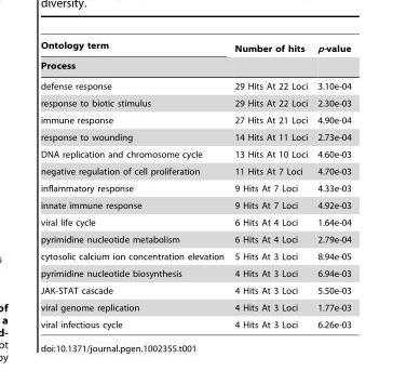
<table><thead><tr><td rowspan="2">Ontology term Process</td><td rowspan="2">Number of hits</td><td rowspan="2">p-value</td></tr><tr></tr></thead><tbody><tr><td>defense response</td><td>29 Hits At 22 Loci</td><td>3.10e-04</td></tr><tr><td>response to biotic stimulus</td><td>29 Hits At 22 Loci</td><td>2.30e-03</td></tr><tr><td>immune response</td><td>27 Hits At 21 Loci</td><td>4.90e-04</td></tr><tr><td>response to wounding</td><td>14 Hits At 11 Loci</td><td>2.73e-04</td></tr><tr><td>DNA replication and chromosome cycle</td><td>13 Hits At 10 Loci</td><td>4.60e-03</td></tr><tr><td>negative regulation of cell proliferation</td><td>11 Hits At 7 Loci</td><td>4.70e-03</td></tr><tr><td>inflammatory response</td><td>9 Hits At 7 Loci</td><td>4.33e-03</td></tr><tr><td>innate immune response</td><td>9 Hits At 7 Loci</td><td>4.92e-03</td></tr><tr><td>viral life cycle</td><td>6 Hits At 4 Loci</td><td>1.64e-04</td></tr><tr><td>pyrimidine nucleotide metabolism</td><td>6 Hits At 4 Loci</td><td>2.79e-04</td></tr><tr><td>cytosolic calcium ion concentration elevation</td><td>5 Hits At 3 Loci</td><td>8.94e-05</td></tr><tr><td>pyrimidine nucleotide biosynthesis</td><td>4 Hits At 3 Loci</td><td>6.94e-03</td></tr><tr><td>JAK-STAT cascade</td><td>4 Hits At 3 Loci</td><td>5.50e-03</td></tr><tr><td>viral genome replication</td><td>4 Hits At 3 Loci</td><td>1.77e-03</td></tr><tr><td>viral infectious cycle</td><td>4 Hits At 3 Loci</td><td>6.26e-03</td></tr></tbody></table>